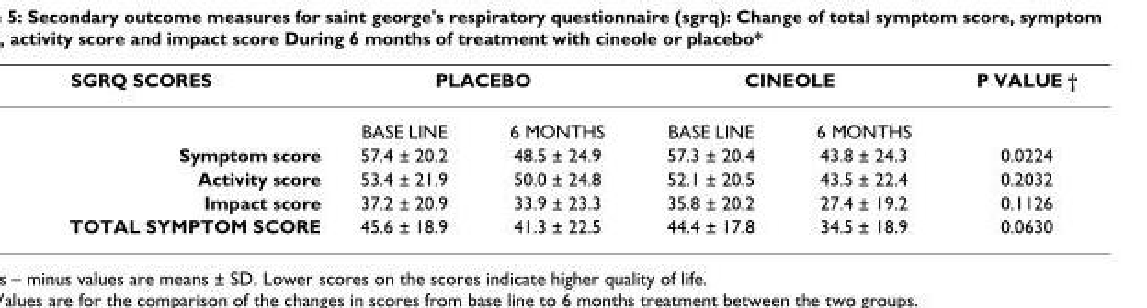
<table><thead><tr><td rowspan="2">SGRQ SCORES</td><td colspan="2">PLACEBO</td><td colspan="2">CINEOLE</td><td rowspan="2">P VALUE †</td></tr><tr><td>BASE LINE</td><td>6 MONTHS</td><td>BASE LINE</td><td>6 MONTHS</td></tr></thead><tbody><tr><td>Symptom score</td><td>57.4 ± 20.2</td><td>48.5 ± 24.9</td><td>57.3 ± 20.4</td><td>43.8 ± 24.3</td><td>0.0224</td></tr><tr><td>Activity score</td><td>53.4 ± 21.9</td><td>50.0 ± 24.8</td><td>52.1 ± 20.5</td><td>43.5 ± 22.4</td><td>0.2032</td></tr><tr><td>Impact score</td><td>37.2 ± 20.9</td><td>33.9 ± 23.3</td><td>35.8 ± 20.2</td><td>27.4 ± 19.2</td><td>0.1126</td></tr><tr><td>TOTAL SYMPTOM SCORE</td><td>45.6 ± 18.9</td><td>41.3 ± 22.5</td><td>44.4 ± 17.8</td><td>34.5 ± 18.9</td><td>0.0630</td></tr></tbody></table>